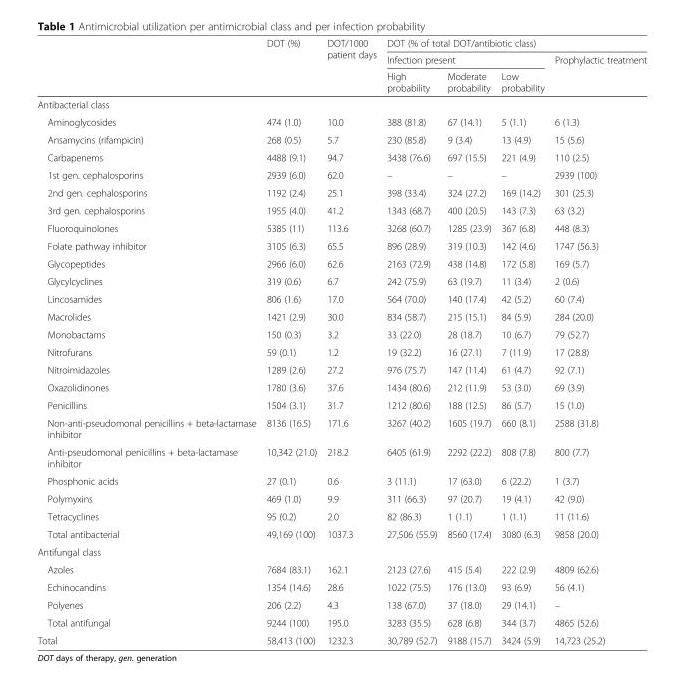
<table><thead><tr><td rowspan="3"></td><td rowspan="3">DOT (%)</td><td rowspan="3">DOT/1000 patient days</td><td colspan="4">DOT (% of total DOT/antibiotic class)</td></tr><tr><td colspan="3">Infection present</td><td rowspan="2">Prophylactic treatment</td></tr><tr><td>High probability</td><td>Moderate probability</td><td>Low probability</td></tr></thead><tbody><tr><td colspan="7">Antibacterial class</td></tr><tr><td>Aminoglycosides</td><td>474 (1.0)</td><td>10.0</td><td>388 (81.8)</td><td>67 (14.1)</td><td>5 (1.1)</td><td>6 (1.3)</td></tr><tr><td>Ansamycins (rifampicin)</td><td>268 (0.5)</td><td>5.7</td><td>230 (85.8)</td><td>9 (3.4)</td><td>13 (4.9)</td><td>15 (5.6)</td></tr><tr><td>Carbapenems</td><td>4488 (9.1)</td><td>94.7</td><td>3438 (76.6)</td><td>697 (15.5)</td><td>221 (4.9)</td><td>110 (2.5)</td></tr><tr><td>1st gen. cephalosporins</td><td>2939 (6.0)</td><td>62.0</td><td>–</td><td>–</td><td>–</td><td>2939 (100)</td></tr><tr><td>2nd gen. cephalosporins</td><td>1192 (2.4)</td><td>25.1</td><td>398 (33.4)</td><td>324 (27.2)</td><td>169 (14.2)</td><td>301 (25.3)</td></tr><tr><td>3rd gen. cephalosporins</td><td>1955 (4.0)</td><td>41.2</td><td>1343 (68.7)</td><td>400 (20.5)</td><td>143 (7.3)</td><td>63 (3.2)</td></tr><tr><td>Fluoroquinolones</td><td>5385 (11)</td><td>113.6</td><td>3268 (60.7)</td><td>1285 (23.9)</td><td>367 (6.8)</td><td>448 (8.3)</td></tr><tr><td>Folate pathway inhibitor</td><td>3105 (6.3)</td><td>65.5</td><td>896 (28.9)</td><td>319 (10.3)</td><td>142 (4.6)</td><td>1747 (56.3)</td></tr><tr><td>Glycopeptides</td><td>2966 (6.0)</td><td>62.6</td><td>2163 (72.9)</td><td>438 (14.8)</td><td>172 (5.8)</td><td>169 (5.7)</td></tr><tr><td>Glycylcyclines</td><td>319 (0.6)</td><td>6.7</td><td>242 (75.9)</td><td>63 (19.7)</td><td>11 (3.4)</td><td>2 (0.6)</td></tr><tr><td>Lincosamides</td><td>806 (1.6)</td><td>17.0</td><td>564 (70.0)</td><td>140 (17.4)</td><td>42 (5.2)</td><td>60 (7.4)</td></tr><tr><td>Macrolides</td><td>1421 (2.9)</td><td>30.0</td><td>834 (58.7)</td><td>215 (15.1)</td><td>84 (5.9)</td><td>284 (20.0)</td></tr><tr><td>Monobactams</td><td>150 (0.3)</td><td>3.2</td><td>33 (22.0)</td><td>28 (18.7)</td><td>10 (6.7)</td><td>79 (52.7)</td></tr><tr><td>Nitrofurans</td><td>59 (0.1)</td><td>1.2</td><td>19 (32.2)</td><td>16 (27.1)</td><td>7 (11.9)</td><td>17 (28.8)</td></tr><tr><td>Nitroimidazoles</td><td>1289 (2.6)</td><td>27.2</td><td>976 (75.7)</td><td>147 (11.4)</td><td>61 (4.7)</td><td>92 (7.1)</td></tr><tr><td>Oxazolidinones</td><td>1780 (3.6)</td><td>37.6</td><td>1434 (80.6)</td><td>212 (11.9)</td><td>53 (3.0)</td><td>69 (3.9)</td></tr><tr><td>Penicillins</td><td>1504 (3.1)</td><td>31.7</td><td>1212 (80.6)</td><td>188 (12.5)</td><td>86 (5.7)</td><td>15 (1.0)</td></tr><tr><td>Non-anti-pseudomonal penicillins + beta-lactamase inhibitor</td><td>8136 (16.5)</td><td>171.6</td><td>3267 (40.2)</td><td>1605 (19.7)</td><td>660 (8.1)</td><td>2588 (31.8)</td></tr><tr><td>Anti-pseudomonal penicillins + beta-lactamase inhibitor</td><td>10,342 (21.0)</td><td>218.2</td><td>6405 (61.9)</td><td>2292 (22.2)</td><td>808 (7.8)</td><td>800 (7.7)</td></tr><tr><td>Phosphonic acids</td><td>27 (0.1)</td><td>0.6</td><td>3 (11.1)</td><td>17 (63.0)</td><td>6 (22.2)</td><td>1 (3.7)</td></tr><tr><td>Polymyxins</td><td>469 (1.0)</td><td>9.9</td><td>311 (66.3)</td><td>97 (20.7)</td><td>19 (4.1)</td><td>42 (9.0)</td></tr><tr><td>Tetracyclines</td><td>95 (0.2)</td><td>2.0</td><td>82 (86.3)</td><td>1 (1.1)</td><td>1 (1.1)</td><td>11 (11.6)</td></tr><tr><td>Total antibacterial</td><td>49,169 (100)</td><td>1037.3</td><td>27,506 (55.9)</td><td>8560 (17.4)</td><td>3080 (6.3)</td><td>9858 (20.0)</td></tr><tr><td colspan="7">Antifungal class</td></tr><tr><td>Azoles</td><td>7684 (83.1)</td><td>162.1</td><td>2123 (27.6)</td><td>415 (5.4)</td><td>222 (2.9)</td><td>4809 (62.6)</td></tr><tr><td>Echinocandins</td><td>1354 (14.6)</td><td>28.6</td><td>1022 (75.5)</td><td>176 (13.0)</td><td>93 (6.9)</td><td>56 (4.1)</td></tr><tr><td>Polyenes</td><td>206 (2.2)</td><td>4.3</td><td>138 (67.0)</td><td>37 (18.0)</td><td>29 (14.1)</td><td>–</td></tr><tr><td>Total antifungal</td><td>9244 (100)</td><td>195.0</td><td>3283 (35.5)</td><td>628 (6.8)</td><td>344 (3.7)</td><td>4865 (52.6)</td></tr><tr><td>Total</td><td>58,413 (100)</td><td>1232.3</td><td>30,789 (52.7)</td><td>9188 (15.7)</td><td>3424 (5.9)</td><td>14,723 (25.2)</td></tr></tbody></table>